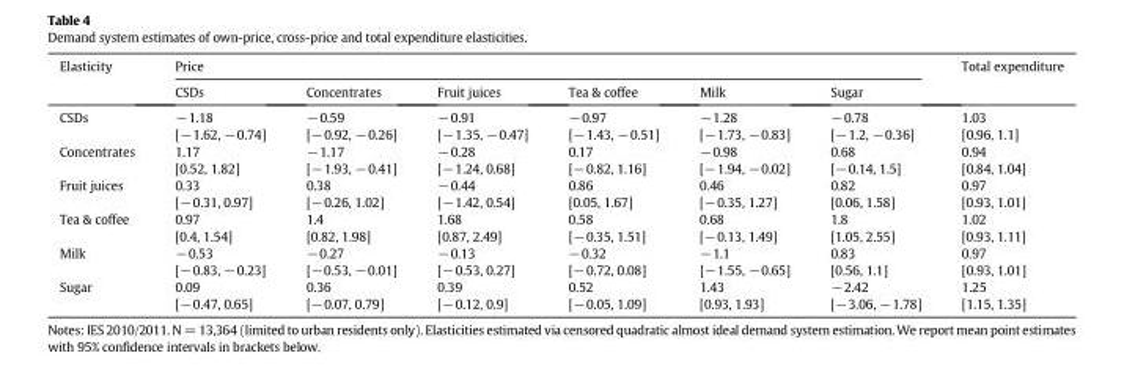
<table><thead><tr><td rowspan="2">Elasticity</td><td colspan="6">Price</td><td rowspan="2">Total expenditure</td></tr><tr><td>CSDs</td><td>Concentrates</td><td>Fruit juices</td><td>Tea &amp; coffee</td><td>Milk</td><td>Sugar</td></tr></thead><tbody><tr><td rowspan="2">CSDs</td><td>−1.18</td><td>−0.59</td><td>−0.91</td><td>−0.97</td><td>−1.28</td><td>−0.78</td><td>1.03</td></tr><tr><td>[−1.62, −0.74]</td><td>[−0.92, −0.26]</td><td>[−1.35, −0.47]</td><td>[−1.43, −0.51]</td><td>[−1.73, −0.83]</td><td>[−1.2, −0.36]</td><td>[0.96, 1.1]</td></tr><tr><td rowspan="2">Concentrates</td><td>1.17</td><td>−1.17</td><td>−0.28</td><td>0.17</td><td>−0.98</td><td>0.68</td><td>0.94</td></tr><tr><td>[0.52, 1.82]</td><td>[−1.93, −0.41]</td><td>[−1.24, 0.68]</td><td>[−0.82, 1.16]</td><td>[−1.94, −0.02]</td><td>[−0.14, 1.5]</td><td>[0.84, 1.04]</td></tr><tr><td rowspan="2">Fruit juices</td><td>0.33</td><td>0.38</td><td>−0.44</td><td>0.86</td><td>0.46</td><td>0.82</td><td>0.97</td></tr><tr><td>[−0.31, 0.97]</td><td>[−0.26, 1.02]</td><td>[−1.42, 0.54]</td><td>[0.05, 1.67]</td><td>[−0.35, 1.27]</td><td>[0.06, 1.58]</td><td>[0.93, 1.01]</td></tr><tr><td rowspan="2">Tea &amp; coffee</td><td>0.97</td><td>1.4</td><td>1.68</td><td>0.58</td><td>0.68</td><td>1.8</td><td>1.02</td></tr><tr><td>[0.4, 1.54]</td><td>[0.82, 1.98]</td><td>[0.87, 2.49]</td><td>[−0.35, 1.51]</td><td>[−0.13, 1.49]</td><td>[1.05, 2.55]</td><td>[0.93, 1.11]</td></tr><tr><td rowspan="2">Milk</td><td>−0.53</td><td>−0.27</td><td>−0.13</td><td>−0.32</td><td>−1.1</td><td>0.83</td><td>0.97</td></tr><tr><td>[−0.83, −0.23]</td><td>[−0.53, −0.01]</td><td>[−0.53, 0.27]</td><td>[−0.72, 0.08]</td><td>[−1.55, −0.65]</td><td>[0.56, 1.1]</td><td>[0.93, 1.01]</td></tr><tr><td rowspan="2">Sugar</td><td>0.09</td><td>0.36</td><td>0.39</td><td>0.52</td><td>1.43</td><td>−2.42</td><td>1.25</td></tr><tr><td>[−0.47, 0.65]</td><td>[−0.07, 0.79]</td><td>[−0.12, 0.9]</td><td>[−0.05, 1.09]</td><td>[0.93, 1.93]</td><td>[−3.06, −1.78]</td><td>[1.15, 1.35]</td></tr></tbody></table>